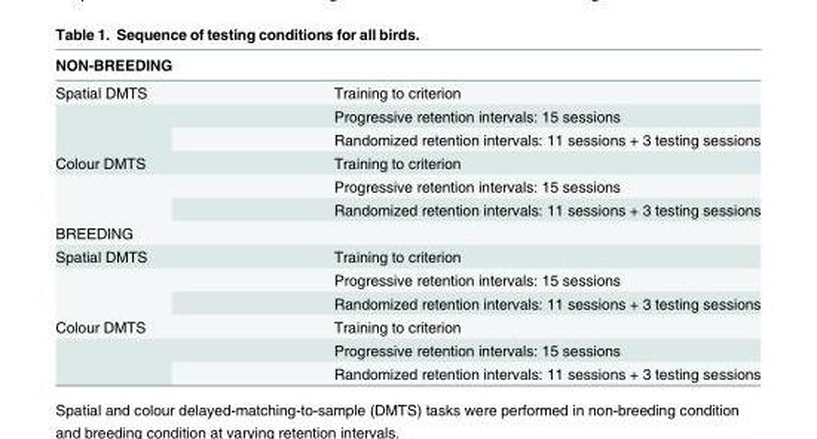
<table><thead><tr><td>NON-BREEDING</td><td></td></tr></thead><tbody><tr><td rowspan="3">Spatial DMTS</td><td>Training to criterion</td></tr><tr><td>Progressive retention intervals: 15 sessions</td></tr><tr><td>Randomized retention intervals: 11 sessions + 3 testing sessions</td></tr><tr><td rowspan="3">Colour DMTS</td><td>Training to criterion</td></tr><tr><td>Progressive retention intervals: 15 sessions</td></tr><tr><td>Randomized retention intervals: 11 sessions + 3 testing sessions</td></tr><tr><td colspan="2">BREEDING</td></tr><tr><td rowspan="3">Spatial DMTS</td><td>Training to criterion</td></tr><tr><td>Progressive retention intervals: 15 sessions</td></tr><tr><td>Randomized retention intervals: 11 sessions + 3 testing sessions</td></tr><tr><td rowspan="3">Colour DMTS</td><td>Training to criterion</td></tr><tr><td>Progressive retention intervals: 15 sessions</td></tr><tr><td>Randomized retention intervals: 11 sessions + 3 testing sessions</td></tr></tbody></table>